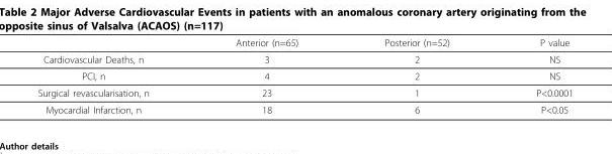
<table><thead><tr><td></td><td>Anterior (n=65)</td><td>Posterior (n=52)</td><td>P value</td></tr></thead><tbody><tr><td>Cardiovascular Deaths, n</td><td>3</td><td>2</td><td>NS</td></tr><tr><td>PCI, n</td><td>4</td><td>2</td><td>NS</td></tr><tr><td>Surgical revascularisation, n</td><td>23</td><td>1</td><td>P&lt;0.0001</td></tr><tr><td>Myocardial Infarction, n</td><td>18</td><td>6</td><td>P&lt;0.05</td></tr></tbody></table>